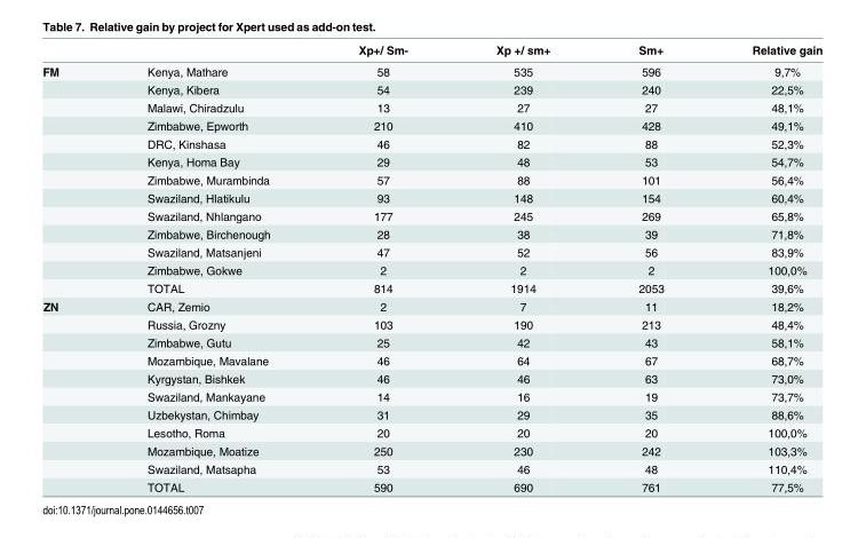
<table><thead><tr><td></td><td></td><td>Xp+/ Sm-</td><td>Xp +/ sm+</td><td>Sm+</td><td>Relative gain</td></tr></thead><tbody><tr><td rowspan="13">FM</td><td>Kenya, Mathare</td><td>58</td><td>535</td><td>596</td><td>9,7%</td></tr><tr><td>Kenya, Kibera</td><td>54</td><td>239</td><td>240</td><td>22,5%</td></tr><tr><td>Malawi, Chiradzulu</td><td>13</td><td>27</td><td>27</td><td>48,1%</td></tr><tr><td>Zimbabwe, Epworth</td><td>210</td><td>410</td><td>428</td><td>49,1%</td></tr><tr><td>DRC, Kinshasa</td><td>46</td><td>82</td><td>88</td><td>52,3%</td></tr><tr><td>Kenya, Homa Bay</td><td>29</td><td>48</td><td>53</td><td>54,7%</td></tr><tr><td>Zimbabwe, Murambinda</td><td>57</td><td>88</td><td>101</td><td>56,4%</td></tr><tr><td>Swaziland, Hlatikulu</td><td>93</td><td>148</td><td>154</td><td>60,4%</td></tr><tr><td>Swaziland, Nhlangano</td><td>177</td><td>245</td><td>269</td><td>65,8%</td></tr><tr><td>Zimbabwe, Birchenough</td><td>28</td><td>38</td><td>39</td><td>71,8%</td></tr><tr><td>Swaziland, Matsanjeni</td><td>47</td><td>52</td><td>56</td><td>83,9%</td></tr><tr><td>Zimbabwe, Gokwe</td><td>2</td><td>2</td><td>2</td><td>100,0%</td></tr><tr><td>TOTAL</td><td>814</td><td>1914</td><td>2053</td><td>39,6%</td></tr><tr><td rowspan="11">ZN</td><td>CAR, Zemio</td><td>2</td><td>7</td><td>11</td><td>18,2%</td></tr><tr><td>Russia, Grozny</td><td>103</td><td>190</td><td>213</td><td>48,4%</td></tr><tr><td>Zimbabwe, Gutu</td><td>25</td><td>42</td><td>43</td><td>58,1%</td></tr><tr><td>Mozambique, Mavalane</td><td>46</td><td>64</td><td>67</td><td>68,7%</td></tr><tr><td>Kyrgystan, Bishkek</td><td>46</td><td>46</td><td>63</td><td>73,0%</td></tr><tr><td>Swaziland, Mankayane</td><td>14</td><td>16</td><td>19</td><td>73,7%</td></tr><tr><td>Uzbekystan, Chimbay</td><td>31</td><td>29</td><td>35</td><td>88,6%</td></tr><tr><td>Lesotho, Roma</td><td>20</td><td>20</td><td>20</td><td>100,0%</td></tr><tr><td>Mozambique, Moatize</td><td>250</td><td>230</td><td>242</td><td>103,3%</td></tr><tr><td>Swaziland, Matsapha</td><td>53</td><td>46</td><td>48</td><td>110,4%</td></tr><tr><td>TOTAL</td><td>590</td><td>690</td><td>761</td><td>77,5%</td></tr></tbody></table>